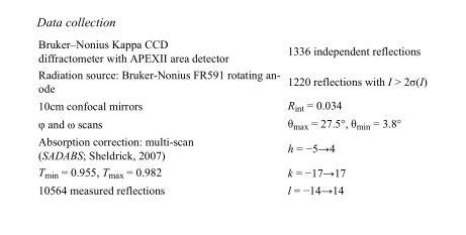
<table><tbody><tr><td>Bruker–Nonius Kappa CCD diffractometer with APEXII area detector</td><td>1336 independent reflections</td></tr><tr><td>Radiation source: Bruker-Nonius FR591 rotating an- ode</td><td>1220 reflections with I &gt; 2σ(I)</td></tr><tr><td>10cm confocal mirrors</td><td>R<sub>int</sub> = 0.034</td></tr><tr><td>φ and ω scans</td><td>θ<sub>max</sub> = 27.5°, θ<sub>min</sub> = 3.8°</td></tr><tr><td>Absorption correction: multi-scan (SADABS; Sheldrick, 2007)</td><td>h = −5→4</td></tr><tr><td>T<sub>min</sub> = 0.955, T<sub>max</sub> = 0.982</td><td>k = −17→17</td></tr><tr><td>10564 measured reflections</td><td>l = −14→14</td></tr></tbody></table>